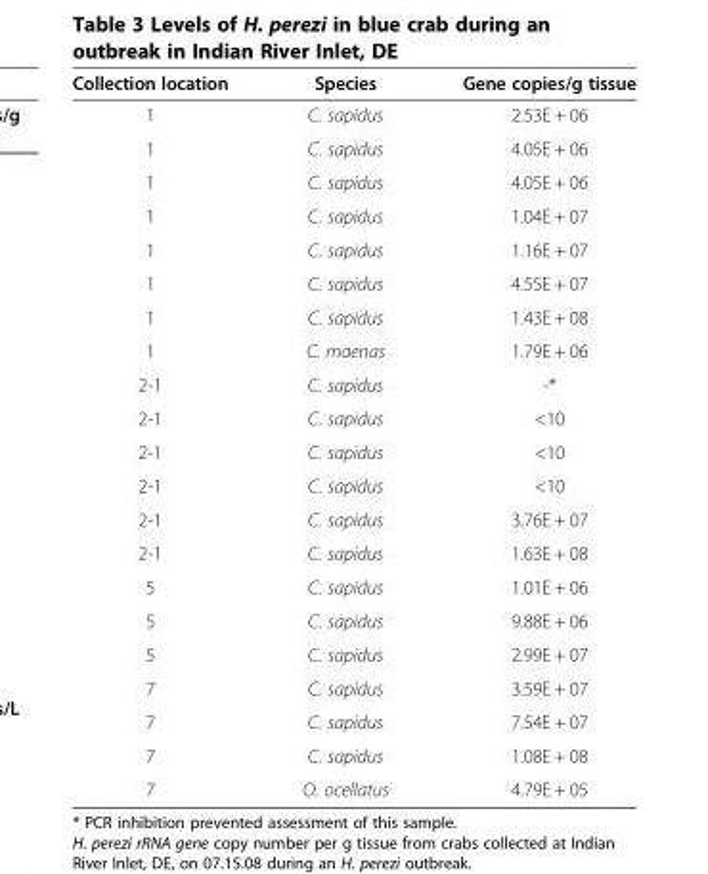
<table><thead><tr><td>Collection location</td><td>Species</td><td>Gene copies/g tissue</td></tr></thead><tbody><tr><td>1</td><td>C. sapidus</td><td>2.53E + 06</td></tr><tr><td>1</td><td>C. sapidus</td><td>4.05E + 06</td></tr><tr><td>1</td><td>C. sapidus</td><td>4.05E + 06</td></tr><tr><td>1</td><td>C. sapidus</td><td>1.04E + 07</td></tr><tr><td>1</td><td>C. sapidus</td><td>1.16E + 07</td></tr><tr><td>1</td><td>C. sapidus</td><td>4.55E + 07</td></tr><tr><td>1</td><td>C. sapidus</td><td>1.43E + 08</td></tr><tr><td>1</td><td>C. maenas</td><td>1.79E + 06</td></tr><tr><td>2-1</td><td>C. sapidus</td><td>-*</td></tr><tr><td>2-1</td><td>C. sapidus</td><td>&lt;10</td></tr><tr><td>2-1</td><td>C. sapidus</td><td>&lt;10</td></tr><tr><td>2-1</td><td>C. sapidus</td><td>&lt;10</td></tr><tr><td>2-1</td><td>C. sapidus</td><td>3.76E + 07</td></tr><tr><td>2-1</td><td>C. sapidus</td><td>1.63E + 08</td></tr><tr><td>5</td><td>C. sapidus</td><td>1.01E + 06</td></tr><tr><td>5</td><td>C. sapidus</td><td>9.88E + 06</td></tr><tr><td>5</td><td>C. sapidus</td><td>2.99E + 07</td></tr><tr><td>7</td><td>C. sapidus</td><td>3.59E + 07</td></tr><tr><td>7</td><td>C. sapidus</td><td>7.54E + 07</td></tr><tr><td>7</td><td>C. sapidus</td><td>1.08E + 08</td></tr><tr><td>7</td><td>O. ocellatus</td><td>4.79E + 05</td></tr></tbody></table>